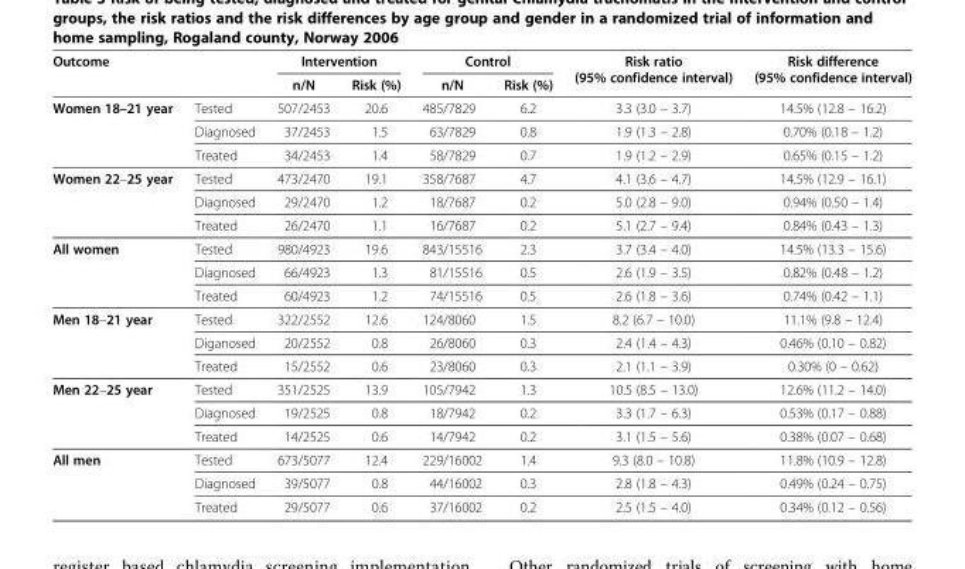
<table><thead><tr><td colspan="2">Outcome</td><td colspan="2">Intervention</td><td colspan="2">Control</td><td rowspan="2">Risk ratio (95% confidence interval)</td><td rowspan="2">Risk difference (95% confidence interval)</td></tr><tr><td></td><td></td><td>n/N</td><td>Risk (%)</td><td>n/N</td><td>Risk (%)</td></tr></thead><tbody><tr><td rowspan="3">Women 18–21 year</td><td>Tested</td><td>507/2453</td><td>20.6</td><td>485/7829</td><td>6.2</td><td>3.3 (3.0 – 3.7)</td><td>14.5% (12.8 – 16.2)</td></tr><tr><td>Diagnosed</td><td>37/2453</td><td>1.5</td><td>63/7829</td><td>0.8</td><td>1.9 (1.3 – 2.8)</td><td>0.70% (0.18 – 1.2)</td></tr><tr><td>Treated</td><td>34/2453</td><td>1.4</td><td>58/7829</td><td>0.7</td><td>1.9 (1.2 – 2.9)</td><td>0.65% (0.15 – 1.2)</td></tr><tr><td rowspan="3">Women 22–25 year</td><td>Tested</td><td>473/2470</td><td>19.1</td><td>358/7687</td><td>4.7</td><td>4.1 (3.6 – 4.7)</td><td>14.5% (12.9 – 16.1)</td></tr><tr><td>Diagnosed</td><td>29/2470</td><td>1.2</td><td>18/7687</td><td>0.2</td><td>5.0 (2.8 – 9.0)</td><td>0.94% (0.50 – 1.4)</td></tr><tr><td>Treated</td><td>26/2470</td><td>1.1</td><td>16/7687</td><td>0.2</td><td>5.1 (2.7 – 9.4)</td><td>0.84% (0.43 – 1.3)</td></tr><tr><td rowspan="3">All women</td><td>Tested</td><td>980/4923</td><td>19.6</td><td>843/15516</td><td>2.3</td><td>3.7 (3.4 – 4.0)</td><td>14.5% (13.3 – 15.6)</td></tr><tr><td>Diagnosed</td><td>66/4923</td><td>1.3</td><td>81/15516</td><td>0.5</td><td>2.6 (1.9 – 3.5)</td><td>0.82% (0.48 – 1.2)</td></tr><tr><td>Treated</td><td>60/4923</td><td>1.2</td><td>74/15516</td><td>0.5</td><td>2.6 (1.8 – 3.6)</td><td>0.74% (0.42 – 1.1)</td></tr><tr><td rowspan="3">Men 18–21 year</td><td>Tested</td><td>322/2552</td><td>12.6</td><td>124/8060</td><td>1.5</td><td>8.2 (6.7 – 10.0)</td><td>11.1% (9.8 – 12.4)</td></tr><tr><td>Diganosed</td><td>20/2552</td><td>0.8</td><td>26/8060</td><td>0.3</td><td>2.4 (1.4 – 4.3)</td><td>0.46% (0.10 – 0.82)</td></tr><tr><td>Treated</td><td>15/2552</td><td>0.6</td><td>23/8060</td><td>0.3</td><td>2.1 (1.1 – 3.9)</td><td>0.30% (0 – 0.62)</td></tr><tr><td rowspan="3">Men 22–25 year</td><td>Tested</td><td>351/2525</td><td>13.9</td><td>105/7942</td><td>1.3</td><td>10.5 (8.5 – 13.0)</td><td>12.6% (11.2 – 14.0)</td></tr><tr><td>Diagnosed</td><td>19/2525</td><td>0.8</td><td>18/7942</td><td>0.2</td><td>3.3 (1.7 – 6.3)</td><td>0.53% (0.17 – 0.88)</td></tr><tr><td>Treated</td><td>14/2525</td><td>0.6</td><td>14/7942</td><td>0.2</td><td>3.1 (1.5 – 5.6)</td><td>0.38% (0.07 – 0.68)</td></tr><tr><td rowspan="3">All men</td><td>Tested</td><td>673/5077</td><td>12.4</td><td>229/16002</td><td>1.4</td><td>9.3 (8.0 – 10.8)</td><td>11.8% (10.9 – 12.8)</td></tr><tr><td>Diagnosed</td><td>39/5077</td><td>0.8</td><td>44/16002</td><td>0.3</td><td>2.8 (1.8 – 4.3)</td><td>0.49% (0.24 – 0.75)</td></tr><tr><td>Treated</td><td>29/5077</td><td>0.6</td><td>37/16002</td><td>0.2</td><td>2.5 (1.5 – 4.0)</td><td>0.34% (0.12 – 0.56)</td></tr></tbody></table>